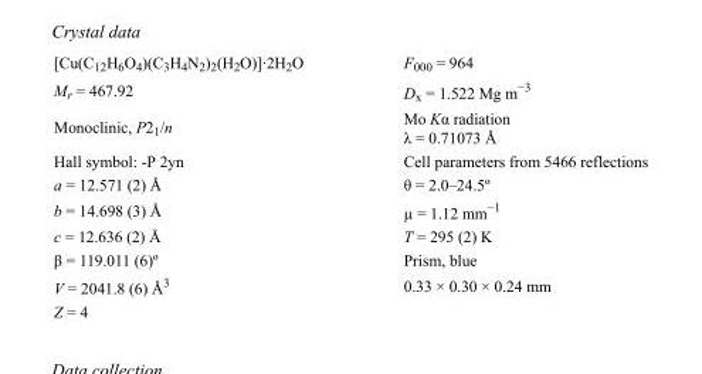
<table><tbody><tr><td>[Cu(C<sub>12</sub>H<sub>6</sub>O<sub>4</sub>)(C<sub>3</sub>H<sub>4</sub>N<sub>2</sub>)<sub>2</sub>(H<sub>2</sub>O)]·2H<sub>2</sub>O</td><td>F<sub>000</sub> = 964</td></tr><tr><td>M<sub>r</sub> = 467.92</td><td>D<sub>x</sub> = 1.522 Mg m<sup>−3</sup></td></tr><tr><td>Monoclinic, P2<sub>1</sub>/n</td><td>Mo Kα radiation λ = 0.71073 Å</td></tr><tr><td>Hall symbol: -P 2yn</td><td>Cell parameters from 5466 reflections</td></tr><tr><td>a = 12.571 (2) Å</td><td>θ = 2.0–24.5º</td></tr><tr><td>b = 14.698 (3) Å</td><td>µ = 1.12 mm<sup>−1</sup></td></tr><tr><td>c = 12.636 (2) Å</td><td>T = 295 (2) K</td></tr><tr><td>β = 119.011 (6)º</td><td>Prism, blue</td></tr><tr><td>V = 2041.8 (6) Å<sup>3</sup></td><td>0.33 × 0.30 × 0.24 mm</td></tr><tr><td>Z = 4</td><td></td></tr></tbody></table>